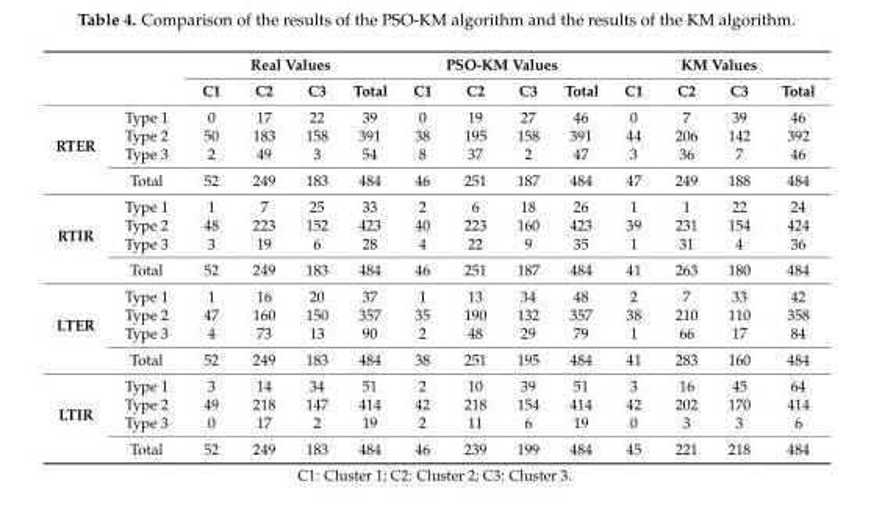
<table><thead><tr><td rowspan="2"></td><td rowspan="2"></td><td colspan="4">Real Values</td><td colspan="4">PSO-KM Values</td><td colspan="4">KM Values</td></tr><tr><td>C1</td><td>C2</td><td>C3</td><td>Total</td><td>C1</td><td>C2</td><td>C3</td><td>Total</td><td>C1</td><td>C2</td><td>C3</td><td>Total</td></tr></thead><tbody><tr><td rowspan="4">RTER</td><td>Type 1</td><td>0</td><td>17</td><td>22</td><td>39</td><td>0</td><td>19</td><td>27</td><td>46</td><td>0</td><td>7</td><td>39</td><td>46</td></tr><tr><td>Type 2</td><td>50</td><td>183</td><td>158</td><td>391</td><td>38</td><td>195</td><td>158</td><td>391</td><td>44</td><td>206</td><td>142</td><td>392</td></tr><tr><td>Type 3</td><td>2</td><td>49</td><td>3</td><td>54</td><td>8</td><td>37</td><td>2</td><td>47</td><td>3</td><td>36</td><td>7</td><td>46</td></tr><tr><td>Total</td><td>52</td><td>249</td><td>183</td><td>484</td><td>46</td><td>251</td><td>187</td><td>484</td><td>47</td><td>249</td><td>188</td><td>484</td></tr><tr><td rowspan="4">RTIR</td><td>Type 1</td><td>1</td><td>7</td><td>25</td><td>33</td><td>2</td><td>6</td><td>18</td><td>26</td><td>1</td><td>1</td><td>22</td><td>24</td></tr><tr><td>Type 2</td><td>48</td><td>223</td><td>152</td><td>423</td><td>40</td><td>223</td><td>160</td><td>423</td><td>39</td><td>231</td><td>154</td><td>424</td></tr><tr><td>Type 3</td><td>3</td><td>19</td><td>6</td><td>28</td><td>4</td><td>22</td><td>9</td><td>35</td><td>1</td><td>31</td><td>4</td><td>36</td></tr><tr><td>Total</td><td>52</td><td>249</td><td>183</td><td>484</td><td>46</td><td>251</td><td>187</td><td>484</td><td>41</td><td>263</td><td>180</td><td>484</td></tr><tr><td rowspan="4">LTER</td><td>Type 1</td><td>1</td><td>16</td><td>20</td><td>37</td><td>1</td><td>13</td><td>34</td><td>48</td><td>2</td><td>7</td><td>33</td><td>42</td></tr><tr><td>Type 2</td><td>47</td><td>160</td><td>150</td><td>357</td><td>35</td><td>190</td><td>132</td><td>357</td><td>38</td><td>210</td><td>110</td><td>358</td></tr><tr><td>Type 3</td><td>4</td><td>73</td><td>13</td><td>90</td><td>2</td><td>48</td><td>29</td><td>79</td><td>1</td><td>66</td><td>17</td><td>84</td></tr><tr><td>Total</td><td>52</td><td>249</td><td>183</td><td>484</td><td>38</td><td>251</td><td>195</td><td>484</td><td>41</td><td>283</td><td>160</td><td>484</td></tr><tr><td rowspan="4">LTIR</td><td>Type 1</td><td>3</td><td>14</td><td>34</td><td>51</td><td>2</td><td>10</td><td>39</td><td>51</td><td>3</td><td>16</td><td>45</td><td>64</td></tr><tr><td>Type 2</td><td>49</td><td>218</td><td>147</td><td>414</td><td>42</td><td>218</td><td>154</td><td>414</td><td>42</td><td>202</td><td>170</td><td>414</td></tr><tr><td>Type 3</td><td>0</td><td>17</td><td>2</td><td>19</td><td>2</td><td>11</td><td>6</td><td>19</td><td>0</td><td>3</td><td>3</td><td>6</td></tr><tr><td>Total</td><td>52</td><td>249</td><td>183</td><td>484</td><td>46</td><td>239</td><td>199</td><td>484</td><td>45</td><td>221</td><td>218</td><td>484</td></tr></tbody></table>